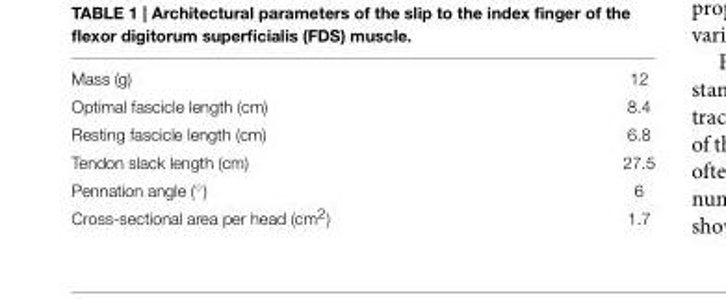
<table><tbody><tr><td>Mass (g)</td><td>12</td></tr><tr><td>Optimal fascicle length (cm)</td><td>8.4</td></tr><tr><td>Resting fascicle length (cm)</td><td>6.8</td></tr><tr><td>Tendon slack length (cm)</td><td>27.5</td></tr><tr><td>Pennation angle (◦)</td><td>6</td></tr><tr><td>Cross-sectional area per head (cm<sup>2</sup>)</td><td>1.7</td></tr></tbody></table>